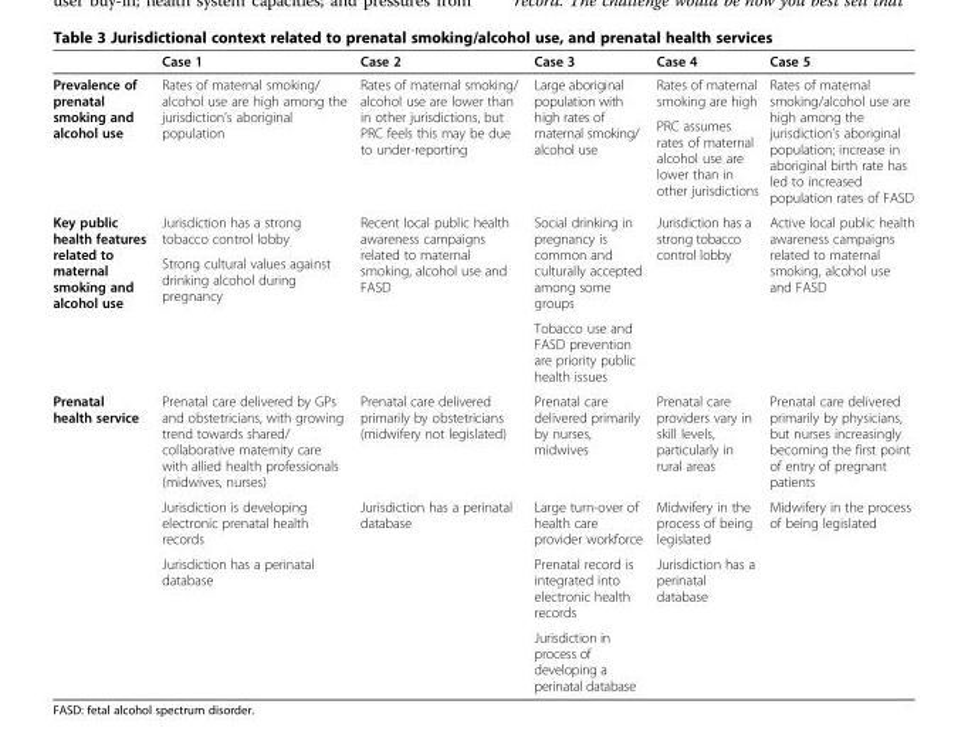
<table><thead><tr><td></td><td>Case 1</td><td>Case 2</td><td>Case 3</td><td>Case 4</td><td>Case 5</td></tr></thead><tbody><tr><td rowspan="2">Prevalence of prenatal smoking and alcohol use</td><td rowspan="2">Rates of maternal smoking/ alcohol use are high among the jurisdiction’s aboriginal population</td><td rowspan="2">Rates of maternal smoking/ alcohol use are lower than in other jurisdictions, but PRC feels this may be due to under-reporting</td><td rowspan="2">Large aboriginal population with high rates of maternal smoking/ alcohol use</td><td>Rates of maternal smoking are high</td><td rowspan="2">Rates of maternal smoking/alcohol use are high among the jurisdiction’s aboriginal population; increase in aboriginal birth rate has led to increased population rates of FASD</td></tr><tr><td>PRC assumes rates of maternal alcohol use are lower than in other jurisdictions</td></tr><tr><td rowspan="3">Key public health features related to maternal smoking and alcohol use</td><td>Jurisdiction has a strong tobacco control lobby</td><td rowspan="3">Recent local public health awareness campaigns related to maternal smoking, alcohol use and FASD</td><td rowspan="2">Social drinking in pregnancy is common and culturally accepted among some groups</td><td rowspan="3">Jurisdiction has a strong tobacco control lobby</td><td rowspan="3">Active local public health awareness campaigns related to maternal smoking, alcohol use and FASD</td></tr><tr><td rowspan="2">Strong cultural values against drinking alcohol during pregnancy</td></tr><tr><td>Tobacco use and FASD prevention are priority public health issues</td></tr><tr><td rowspan="4">Prenatal health service</td><td>Prenatal care delivered by GPs and obstetricians, with growing trend towards shared/ collaborative maternity care with allied health professionals (midwives, nurses)</td><td>Prenatal care delivered primarily by obstetricians (midwifery not legislated)</td><td>Prenatal care delivered primarily by nurses, midwives</td><td>Prenatal care providers vary in skill levels, particularly in rural areas</td><td>Prenatal care delivered primarily by physicians, but nurses increasingly becoming the first point of entry of pregnant patients</td></tr><tr><td>Jurisdiction is developing electronic prenatal health records</td><td rowspan="3">Jurisdiction has a perinatal database</td><td>Large turn-over of health care provider workforce</td><td>Midwifery in the process of being legislated</td><td rowspan="3">Midwifery in the process of being legislated</td></tr><tr><td rowspan="2">Jurisdiction has a perinatal database</td><td>Prenatal record is integrated into electronic health records</td><td rowspan="2">Jurisdiction has a perinatal database</td></tr><tr><td>Jurisdiction in process of developing a perinatal database</td></tr></tbody></table>